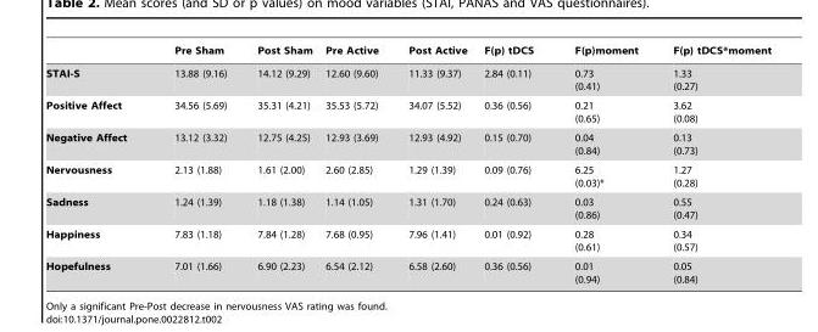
<table><thead><tr><td></td><td>Pre Sham</td><td>Post Sham</td><td>Pre Active</td><td>Post Active</td><td>F(p) tDCS</td><td>F(p)moment</td><td>F(p) tDCS*moment</td></tr></thead><tbody><tr><td>STAI-S</td><td>13.88 (9.16)</td><td>14.12 (9.29)</td><td>12.60 (9.60)</td><td>11.33 (9.37)</td><td>2.84 (0.11)</td><td>0.73 (0.41)</td><td>1.33 (0.27)</td></tr><tr><td>Positive Affect</td><td>34.56 (5.69)</td><td>35.31 (4.21)</td><td>35.53 (5.72)</td><td>34.07 (5.52)</td><td>0.36 (0.56)</td><td>0.21 (0.65)</td><td>3.62 (0.08)</td></tr><tr><td>Negative Affect</td><td>13.12 (3.32)</td><td>12.75 (4.25)</td><td>12.93 (3.69)</td><td>12.93 (4.92)</td><td>0.15 (0.70)</td><td>0.04 (0.84)</td><td>0.13 (0.73)</td></tr><tr><td>Nervousness</td><td>2.13 (1.88)</td><td>1.61 (2.00)</td><td>2.60 (2.85)</td><td>1.29 (1.39)</td><td>0.09 (0.76)</td><td>6.25 (0.03)*</td><td>1.27 (0.28)</td></tr><tr><td>Sadness</td><td>1.24 (1.39)</td><td>1.18 (1.38)</td><td>1.14 (1.05)</td><td>1.31 (1.70)</td><td>0.24 (0.63)</td><td>0.03 (0.86)</td><td>0.55 (0.47)</td></tr><tr><td>Happiness</td><td>7.83 (1.18)</td><td>7.84 (1.28)</td><td>7.68 (0.95)</td><td>7.96 (1.41)</td><td>0.01 (0.92)</td><td>0.28 (0.61)</td><td>0.34 (0.57)</td></tr><tr><td>Hopefulness</td><td>7.01 (1.66)</td><td>6.90 (2.23)</td><td>6.54 (2.12)</td><td>6.58 (2.60)</td><td>0.36 (0.56)</td><td>0.01 (0.94)</td><td>0.05 (0.84)</td></tr></tbody></table>